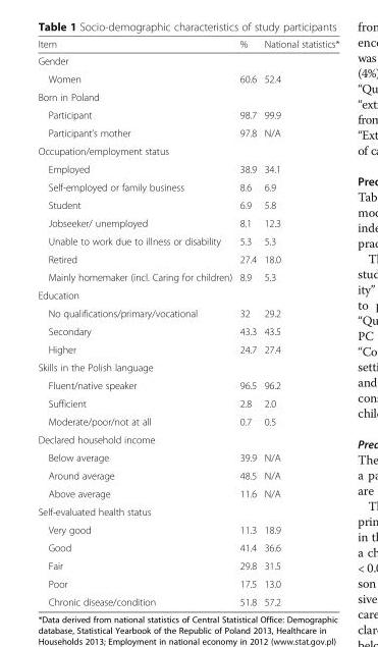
<table><thead><tr><td>Item</td><td>%</td><td>National statistics*</td></tr></thead><tbody><tr><td colspan="3">Gender</td></tr><tr><td>Women</td><td>60.6</td><td>52.4</td></tr><tr><td colspan="3">Born in Poland</td></tr><tr><td>Participant</td><td>98.7</td><td>99.9</td></tr><tr><td>Participant’s mother</td><td>97.8</td><td>N/A</td></tr><tr><td colspan="3">Occupation/employment status</td></tr><tr><td>Employed</td><td>38.9</td><td>34.1</td></tr><tr><td>Self-employed or family business</td><td>8.6</td><td>6.9</td></tr><tr><td>Student</td><td>6.9</td><td>5.8</td></tr><tr><td>Jobseeker/ unemployed</td><td>8.1</td><td>12.3</td></tr><tr><td>Unable to work due to illness or disability</td><td>5.3</td><td>5.3</td></tr><tr><td>Retired</td><td>27.4</td><td>18.0</td></tr><tr><td>Mainly homemaker (incl. Caring for children)</td><td>8.9</td><td>5.3</td></tr><tr><td colspan="3">Education</td></tr><tr><td>No qualifications/primary/vocational</td><td>32</td><td>29.2</td></tr><tr><td>Secondary</td><td>43.3</td><td>43.5</td></tr><tr><td>Higher</td><td>24.7</td><td>27.4</td></tr><tr><td colspan="3">Skills in the Polish language</td></tr><tr><td>Fluent/native speaker</td><td>96.5</td><td>96.2</td></tr><tr><td>Sufficient</td><td>2.8</td><td>2.0</td></tr><tr><td>Moderate/poor/not at all</td><td>0.7</td><td>0.5</td></tr><tr><td colspan="3">Declared household income</td></tr><tr><td>Below average</td><td>39.9</td><td>N/A</td></tr><tr><td>Around average</td><td>48.5</td><td>N/A</td></tr><tr><td>Above average</td><td>11.6</td><td>N/A</td></tr><tr><td colspan="3">Self-evaluated health status</td></tr><tr><td>Very good</td><td>11.3</td><td>18.9</td></tr><tr><td>Good</td><td>41.4</td><td>36.6</td></tr><tr><td>Fair</td><td>29.8</td><td>31.5</td></tr><tr><td>Poor</td><td>17.5</td><td>13.0</td></tr><tr><td>Chronic disease/condition</td><td>51.8</td><td>57.2</td></tr></tbody></table>